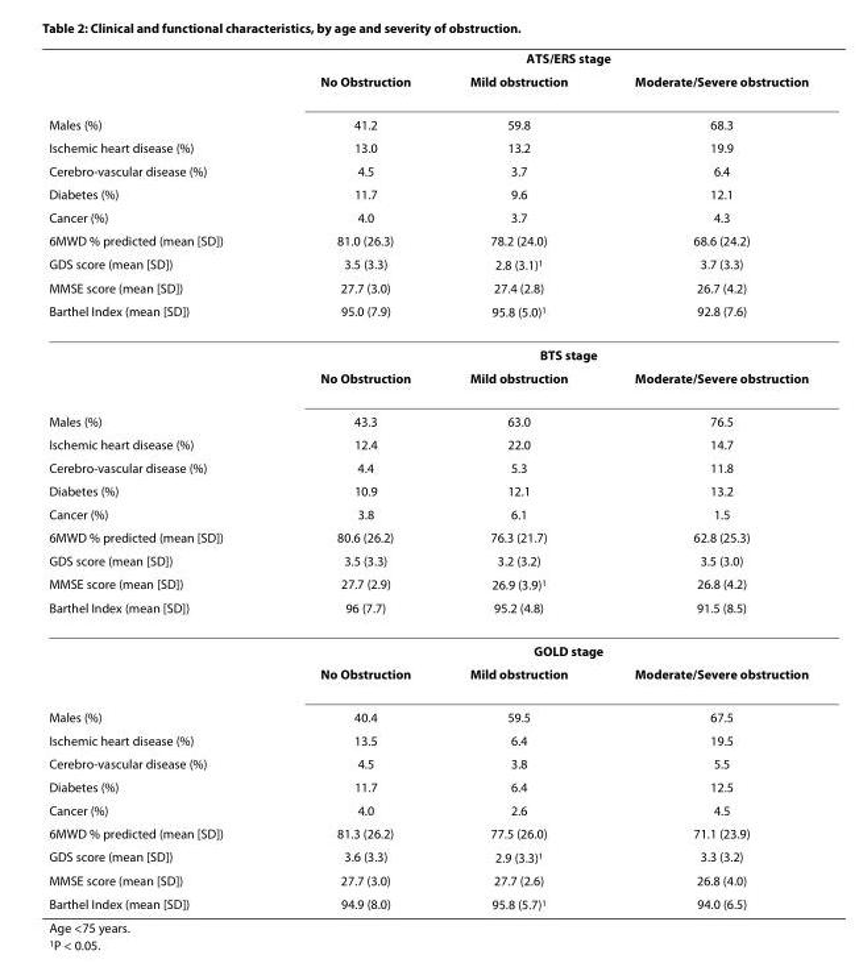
<table><thead><tr><td rowspan="11">Males (%) Ischemic heart disease (%) Cerebro-vascular disease (%) Diabetes (%) Cancer (%) 6MWD % predicted (mean [SD]) GDS score (mean [SD]) MMSE score (mean [SD]) Barthel Index (mean [SD])</td><td colspan="3">ATS/ERS stage</td></tr><tr><td rowspan="10">No Obstruction 41.2 13.0 4.5 11.7 4.0 81.0 (26.3) 3.5 (3.3) 27.7 (3.0) 95.0 (7.9)</td><td rowspan="10">Mild obstruction 59.8 13.2 3.7 9.6 3.7 78.2 (24.0) 2.8 (3.1)1 27.4 (2.8) 95.8 (5.0)1</td><td rowspan="10">Moderate/Severe obstruction 68.3 19.9 6.4 12.1 4.3 68.6 (24.2) 3.7 (3.3) 26.7 (4.2) 92.8 (7.6)</td></tr><tr></tr><tr></tr><tr></tr><tr></tr><tr></tr><tr></tr><tr></tr><tr></tr><tr></tr></thead><tbody><tr><td></td><td colspan="3">BTS stage</td></tr><tr><td></td><td>No Obstruction</td><td>Mild obstruction</td><td>Moderate/Severe obstruction</td></tr><tr><td>Males (%)</td><td>43.3</td><td>63.0</td><td>76.5</td></tr><tr><td>Ischemic heart disease (%)</td><td>12.4</td><td>22.0</td><td>14.7</td></tr><tr><td>Cerebro-vascular disease (%)</td><td>4.4</td><td>5.3</td><td>11.8</td></tr><tr><td>Diabetes (%)</td><td>10.9</td><td>12.1</td><td>13.2</td></tr><tr><td>Cancer (%)</td><td>3.8</td><td>6.1</td><td>1.5</td></tr><tr><td>6MWD % predicted (mean [SD])</td><td>80.6 (26.2)</td><td>76.3 (21.7)</td><td>62.8 (25.3)</td></tr><tr><td>GDS score (mean [SD])</td><td>3.5 (3.3)</td><td>3.2 (3.2)</td><td>3.5 (3.0)</td></tr><tr><td>MMSE score (mean [SD])</td><td>27.7 (2.9)</td><td>26.9 (3.9)<sup>1</sup></td><td>26.8 (4.2)</td></tr><tr><td rowspan="3">Barthel Index (mean [SD])</td><td>96 (7.7)</td><td>95.2 (4.8)</td><td>91.5 (8.5)</td></tr><tr><td colspan="3">GOLD stage</td></tr><tr><td>No Obstruction</td><td>Mild obstruction</td><td>Moderate/Severe obstruction</td></tr><tr><td>Males (%)</td><td>40.4</td><td>59.5</td><td>67.5</td></tr><tr><td>Ischemic heart disease (%)</td><td>13.5</td><td>6.4</td><td>19.5</td></tr><tr><td>Cerebro-vascular disease (%)</td><td>4.5</td><td>3.8</td><td>5.5</td></tr><tr><td>Diabetes (%)</td><td>11.7</td><td>6.4</td><td>12.5</td></tr><tr><td>Cancer (%)</td><td>4.0</td><td>2.6</td><td>4.5</td></tr><tr><td>6MWD % predicted (mean [SD])</td><td>81.3 (26.2)</td><td>77.5 (26.0)</td><td>71.1 (23.9)</td></tr><tr><td>GDS score (mean [SD])</td><td>3.6 (3.3)</td><td>2.9 (3.3)1</td><td>3.3 (3.2)</td></tr><tr><td>MMSE score (mean [SD])</td><td>27.7 (3.0)</td><td>27.7 (2.6)</td><td>26.8 (4.0)</td></tr><tr><td>Barthel Index (mean [SD])</td><td>94.9 (8.0)</td><td>95.8 (5.7)1</td><td>94.0 (6.5)</td></tr></tbody></table>